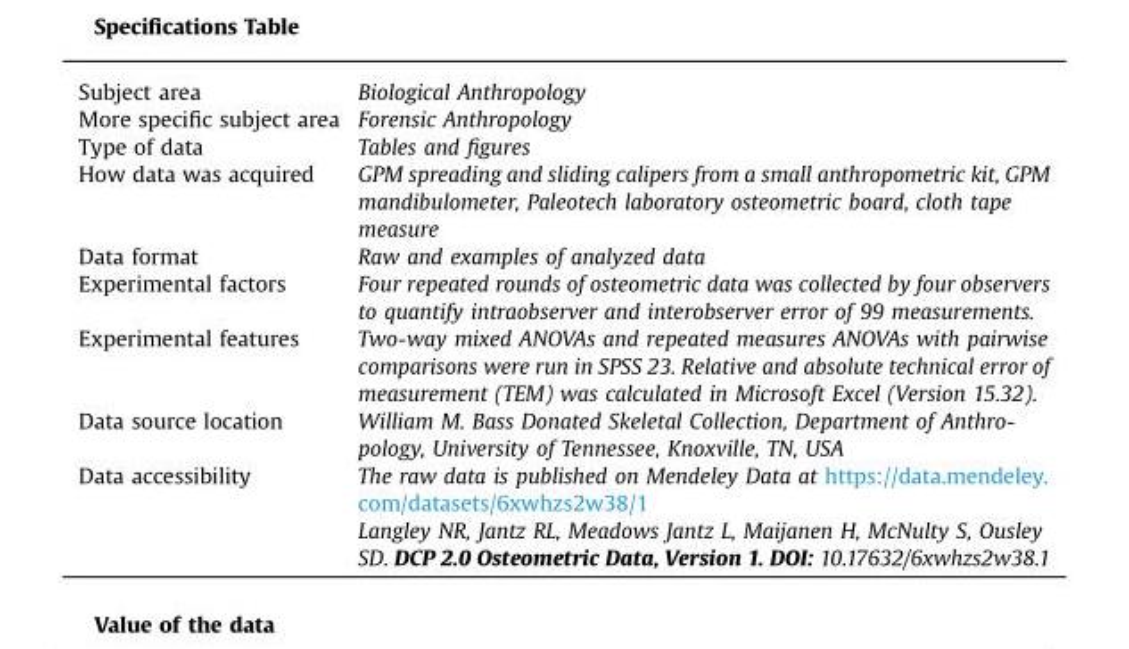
<table><tbody><tr><td>Subject area</td><td>Biological Anthropology</td></tr><tr><td>More specific subject area</td><td>Forensic Anthropology</td></tr><tr><td>Type of data</td><td>Tables and figures</td></tr><tr><td>How data was acquired</td><td>GPM spreading and sliding calipers from a small anthropometric kit, GPM mandibulometer, Paleotech laboratory osteometric board, cloth tape measure</td></tr><tr><td>Data format</td><td>Raw and examples of analyzed data</td></tr><tr><td>Experimental factors</td><td>Four repeated rounds of osteometric data was collected by four observers to quantify intraobserver and interobserver error of 99 measurements.</td></tr><tr><td>Experimental features</td><td>Two-way mixed ANOVAs and repeated measures ANOVAs with pairwise comparisons were run in SPSS 23. Relative and absolute technical error of measurement (TEM) was calculated in Microsoft Excel (Version 15.32).</td></tr><tr><td>Data source location</td><td>William M. Bass Donated Skeletal Collection, Department of Anthro- pology, University of Tennessee, Knoxville, TN, USA</td></tr><tr><td rowspan="2">Data accessibility</td><td>The raw data is published on Mendeley Data at https://data.mendeley. com/datasets/6xwhzs2w38/1</td></tr><tr><td>Langley NR, Jantz RL, Meadows Jantz L, Maijanen H, McNulty S, Ousley SD. DCP 2.0 Osteometric Data, Version 1. DOI: 10.17632/6xwhzs2w38.1</td></tr></tbody></table>